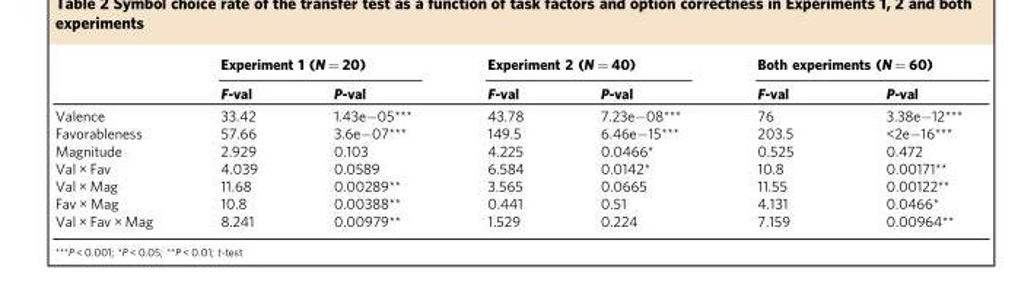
<table><thead><tr><td rowspan="2"></td><td colspan="2">Experiment 1 (N = 20)</td><td colspan="2">Experiment 2 (N = 40)</td><td colspan="2">Both experiments (N = 60)</td></tr><tr><td>F-val</td><td>P-val</td><td>F-val</td><td>P-val</td><td>F-val</td><td>P-val</td></tr></thead><tbody><tr><td>Valence</td><td>33.42</td><td>1.43e−05***</td><td>43.78</td><td>7.23e−08***</td><td>76</td><td>3.38e−12***</td></tr><tr><td>Favorableness</td><td>57.66</td><td>3.6e−07***</td><td>149.5</td><td>6.46e−15***</td><td>203.5</td><td>&lt;2e−16***</td></tr><tr><td>Magnitude</td><td>2.929</td><td>0.103</td><td>4.225</td><td>0.0466*</td><td>0.525</td><td>0.472</td></tr><tr><td>Val × Fav</td><td>4.039</td><td>0.0589</td><td>6.584</td><td>0.0142*</td><td>10.8</td><td>0.00171**</td></tr><tr><td>Val × Mag</td><td>11.68</td><td>0.00289**</td><td>3.565</td><td>0.0665</td><td>11.55</td><td>0.00122**</td></tr><tr><td>Fav × Mag</td><td>10.8</td><td>0.00388**</td><td>0.441</td><td>0.51</td><td>4.131</td><td>0.0466*</td></tr><tr><td>Val × Fav × Mag</td><td>8.241</td><td>0.00979**</td><td>1.529</td><td>0.224</td><td>7.159</td><td>0.00964**</td></tr></tbody></table>